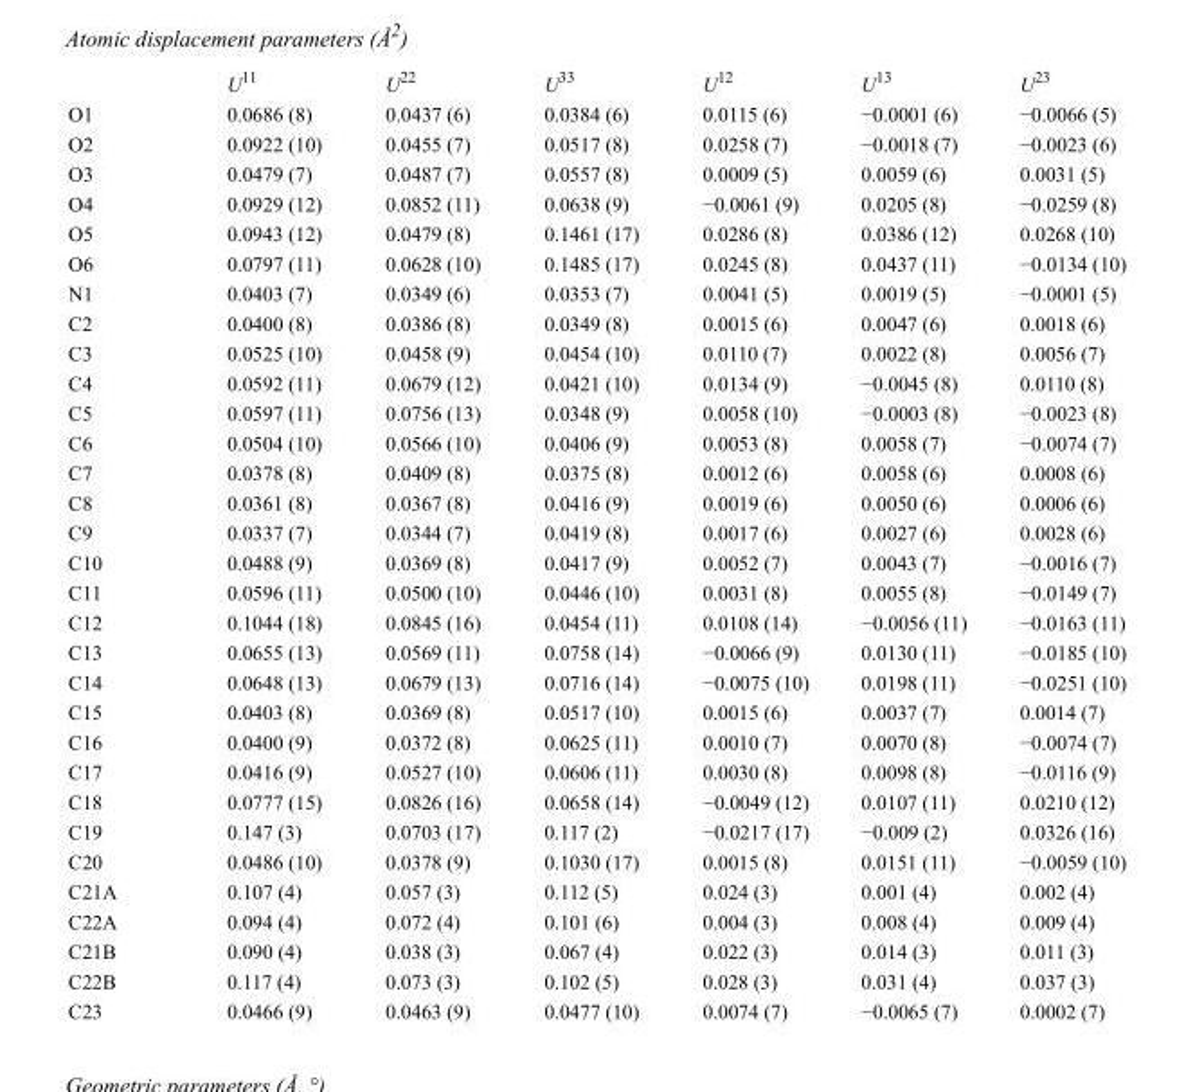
<table><thead><tr><td></td><td>U<sup>11</sup></td><td>U<sup>22</sup></td><td>U<sup>33</sup></td><td>U<sup>12</sup></td><td>U<sup>13</sup></td><td>U<sup>23</sup></td></tr></thead><tbody><tr><td>O1</td><td>0.0686 (8)</td><td>0.0437 (6)</td><td>0.0384 (6)</td><td>0.0115 (6)</td><td>−0.0001 (6)</td><td>−0.0066 (5)</td></tr><tr><td>O2</td><td>0.0922 (10)</td><td>0.0455 (7)</td><td>0.0517 (8)</td><td>0.0258 (7)</td><td>−0.0018 (7)</td><td>−0.0023 (6)</td></tr><tr><td>O3</td><td>0.0479 (7)</td><td>0.0487 (7)</td><td>0.0557 (8)</td><td>0.0009 (5)</td><td>0.0059 (6)</td><td>0.0031 (5)</td></tr><tr><td>O4</td><td>0.0929 (12)</td><td>0.0852 (11)</td><td>0.0638 (9)</td><td>−0.0061 (9)</td><td>0.0205 (8)</td><td>−0.0259 (8)</td></tr><tr><td>O5</td><td>0.0943 (12)</td><td>0.0479 (8)</td><td>0.1461 (17)</td><td>0.0286 (8)</td><td>0.0386 (12)</td><td>0.0268 (10)</td></tr><tr><td>O6</td><td>0.0797 (11)</td><td>0.0628 (10)</td><td>0.1485 (17)</td><td>0.0245 (8)</td><td>0.0437 (11)</td><td>−0.0134 (10)</td></tr><tr><td>N1</td><td>0.0403 (7)</td><td>0.0349 (6)</td><td>0.0353 (7)</td><td>0.0041 (5)</td><td>0.0019 (5)</td><td>−0.0001 (5)</td></tr><tr><td>C2</td><td>0.0400 (8)</td><td>0.0386 (8)</td><td>0.0349 (8)</td><td>0.0015 (6)</td><td>0.0047 (6)</td><td>0.0018 (6)</td></tr><tr><td>C3</td><td>0.0525 (10)</td><td>0.0458 (9)</td><td>0.0454 (10)</td><td>0.0110 (7)</td><td>0.0022 (8)</td><td>0.0056 (7)</td></tr><tr><td>C4</td><td>0.0592 (11)</td><td>0.0679 (12)</td><td>0.0421 (10)</td><td>0.0134 (9)</td><td>−0.0045 (8)</td><td>0.0110 (8)</td></tr><tr><td>C5</td><td>0.0597 (11)</td><td>0.0756 (13)</td><td>0.0348 (9)</td><td>0.0058 (10)</td><td>−0.0003 (8)</td><td>−0.0023 (8)</td></tr><tr><td>C6</td><td>0.0504 (10)</td><td>0.0566 (10)</td><td>0.0406 (9)</td><td>0.0053 (8)</td><td>0.0058 (7)</td><td>−0.0074 (7)</td></tr><tr><td>C7</td><td>0.0378 (8)</td><td>0.0409 (8)</td><td>0.0375 (8)</td><td>0.0012 (6)</td><td>0.0058 (6)</td><td>0.0008 (6)</td></tr><tr><td>C8</td><td>0.0361 (8)</td><td>0.0367 (8)</td><td>0.0416 (9)</td><td>0.0019 (6)</td><td>0.0050 (6)</td><td>0.0006 (6)</td></tr><tr><td>C9</td><td>0.0337 (7)</td><td>0.0344 (7)</td><td>0.0419 (8)</td><td>0.0017 (6)</td><td>0.0027 (6)</td><td>0.0028 (6)</td></tr><tr><td>C10</td><td>0.0488 (9)</td><td>0.0369 (8)</td><td>0.0417 (9)</td><td>0.0052 (7)</td><td>0.0043 (7)</td><td>−0.0016 (7)</td></tr><tr><td>C11</td><td>0.0596 (11)</td><td>0.0500 (10)</td><td>0.0446 (10)</td><td>0.0031 (8)</td><td>0.0055 (8)</td><td>−0.0149 (7)</td></tr><tr><td>C12</td><td>0.1044 (18)</td><td>0.0845 (16)</td><td>0.0454 (11)</td><td>0.0108 (14)</td><td>−0.0056 (11)</td><td>−0.0163 (11)</td></tr><tr><td>C13</td><td>0.0655 (13)</td><td>0.0569 (11)</td><td>0.0758 (14)</td><td>−0.0066 (9)</td><td>0.0130 (11)</td><td>−0.0185 (10)</td></tr><tr><td>C14</td><td>0.0648 (13)</td><td>0.0679 (13)</td><td>0.0716 (14)</td><td>−0.0075 (10)</td><td>0.0198 (11)</td><td>−0.0251 (10)</td></tr><tr><td>C15</td><td>0.0403 (8)</td><td>0.0369 (8)</td><td>0.0517 (10)</td><td>0.0015 (6)</td><td>0.0037 (7)</td><td>0.0014 (7)</td></tr><tr><td>C16</td><td>0.0400 (9)</td><td>0.0372 (8)</td><td>0.0625 (11)</td><td>0.0010 (7)</td><td>0.0070 (8)</td><td>−0.0074 (7)</td></tr><tr><td>C17</td><td>0.0416 (9)</td><td>0.0527 (10)</td><td>0.0606 (11)</td><td>0.0030 (8)</td><td>0.0098 (8)</td><td>−0.0116 (9)</td></tr><tr><td>C18</td><td>0.0777 (15)</td><td>0.0826 (16)</td><td>0.0658 (14)</td><td>−0.0049 (12)</td><td>0.0107 (11)</td><td>0.0210 (12)</td></tr><tr><td>C19</td><td>0.147 (3)</td><td>0.0703 (17)</td><td>0.117 (2)</td><td>−0.0217 (17)</td><td>−0.009 (2)</td><td>0.0326 (16)</td></tr><tr><td>C20</td><td>0.0486 (10)</td><td>0.0378 (9)</td><td>0.1030 (17)</td><td>0.0015 (8)</td><td>0.0151 (11)</td><td>−0.0059 (10)</td></tr><tr><td>C21A</td><td>0.107 (4)</td><td>0.057 (3)</td><td>0.112 (5)</td><td>0.024 (3)</td><td>0.001 (4)</td><td>0.002 (4)</td></tr><tr><td>C22A</td><td>0.094 (4)</td><td>0.072 (4)</td><td>0.101 (6)</td><td>0.004 (3)</td><td>0.008 (4)</td><td>0.009 (4)</td></tr><tr><td>C21B</td><td>0.090 (4)</td><td>0.038 (3)</td><td>0.067 (4)</td><td>0.022 (3)</td><td>0.014 (3)</td><td>0.011 (3)</td></tr><tr><td>C22B</td><td>0.117 (4)</td><td>0.073 (3)</td><td>0.102 (5)</td><td>0.028 (3)</td><td>0.031 (4)</td><td>0.037 (3)</td></tr><tr><td>C23</td><td>0.0466 (9)</td><td>0.0463 (9)</td><td>0.0477 (10)</td><td>0.0074 (7)</td><td>−0.0065 (7)</td><td>0.0002 (7)</td></tr></tbody></table>